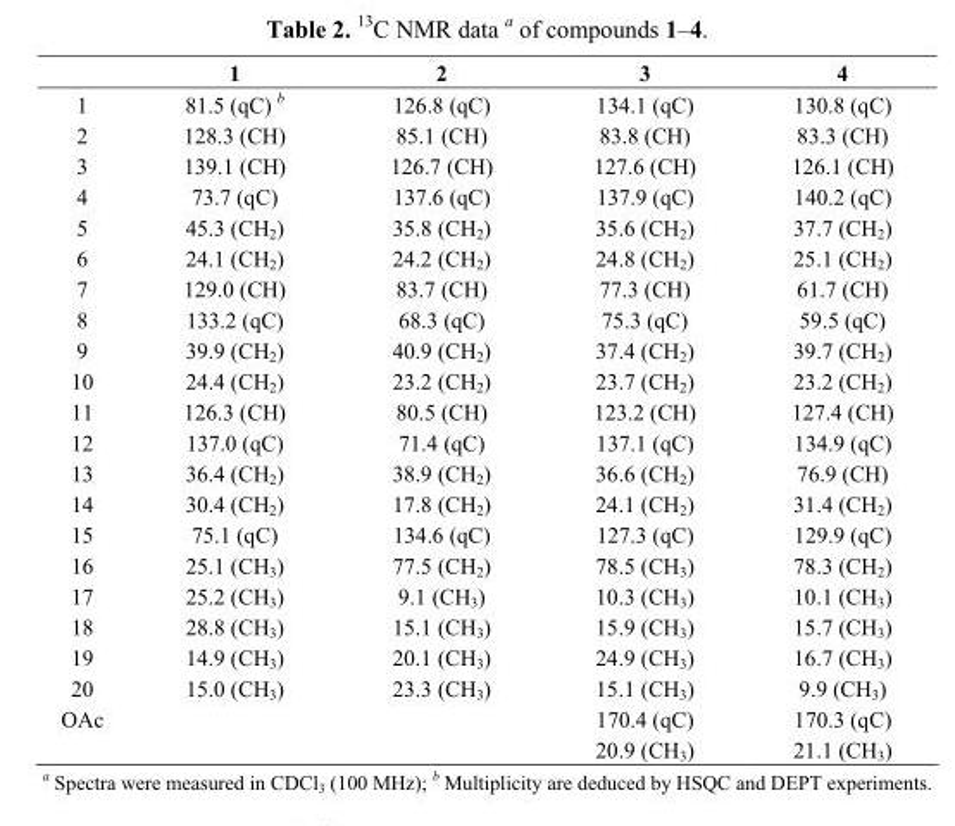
<table><thead><tr><td></td><td>1</td><td>2</td><td>3</td><td>4</td></tr></thead><tbody><tr><td>1</td><td>81.5 (qC) <sup>b</sup></td><td>126.8 (qC)</td><td>134.1 (qC)</td><td>130.8 (qC)</td></tr><tr><td>2</td><td>128.3 (CH)</td><td>85.1 (CH)</td><td>83.8 (CH)</td><td>83.3 (CH)</td></tr><tr><td>3</td><td>139.1 (CH)</td><td>126.7 (CH)</td><td>127.6 (CH)</td><td>126.1 (CH)</td></tr><tr><td>4</td><td>73.7 (qC)</td><td>137.6 (qC)</td><td>137.9 (qC)</td><td>140.2 (qC)</td></tr><tr><td>5</td><td>45.3 (CH<sub>2</sub>)</td><td>35.8 (CH<sub>2</sub>)</td><td>35.6 (CH<sub>2</sub>)</td><td>37.7 (CH<sub>2</sub>)</td></tr><tr><td>6</td><td>24.1 (CH<sub>2</sub>)</td><td>24.2 (CH<sub>2</sub>)</td><td>24.8 (CH<sub>2</sub>)</td><td>25.1 (CH<sub>2</sub>)</td></tr><tr><td>7</td><td>129.0 (CH)</td><td>83.7 (CH)</td><td>77.3 (CH)</td><td>61.7 (CH)</td></tr><tr><td>8</td><td>133.2 (qC)</td><td>68.3 (qC)</td><td>75.3 (qC)</td><td>59.5 (qC)</td></tr><tr><td>9</td><td>39.9 (CH<sub>2</sub>)</td><td>40.9 (CH<sub>2</sub>)</td><td>37.4 (CH<sub>2</sub>)</td><td>39.7 (CH<sub>2</sub>)</td></tr><tr><td>10</td><td>24.4 (CH<sub>2</sub>)</td><td>23.2 (CH<sub>2</sub>)</td><td>23.7 (CH<sub>2</sub>)</td><td>23.2 (CH<sub>2</sub>)</td></tr><tr><td>11</td><td>126.3 (CH)</td><td>80.5 (CH)</td><td>123.2 (CH)</td><td>127.4 (CH)</td></tr><tr><td>12</td><td>137.0 (qC)</td><td>71.4 (qC)</td><td>137.1 (qC)</td><td>134.9 (qC)</td></tr><tr><td>13</td><td>36.4 (CH<sub>2</sub>)</td><td>38.9 (CH<sub>2</sub>)</td><td>36.6 (CH<sub>2</sub>)</td><td>76.9 (CH)</td></tr><tr><td>14</td><td>30.4 (CH<sub>2</sub>)</td><td>17.8 (CH<sub>2</sub>)</td><td>24.1 (CH<sub>2</sub>)</td><td>31.4 (CH<sub>2</sub>)</td></tr><tr><td>15</td><td>75.1 (qC)</td><td>134.6 (qC)</td><td>127.3 (qC)</td><td>129.9 (qC)</td></tr><tr><td>16</td><td>25.1 (CH<sub>3</sub>)</td><td>77.5 (CH<sub>2</sub>)</td><td>78.5 (CH<sub>3</sub>)</td><td>78.3 (CH<sub>2</sub>)</td></tr><tr><td>17</td><td>25.2 (CH<sub>3</sub>)</td><td>9.1 (CH<sub>3</sub>)</td><td>10.3 (CH<sub>3</sub>)</td><td>10.1 (CH<sub>3</sub>)</td></tr><tr><td>18</td><td>28.8 (CH<sub>3</sub>)</td><td>15.1 (CH<sub>3</sub>)</td><td>15.9 (CH<sub>3</sub>)</td><td>15.7 (CH<sub>3</sub>)</td></tr><tr><td>19</td><td>14.9 (CH<sub>3</sub>)</td><td>20.1 (CH<sub>3</sub>)</td><td>24.9 (CH<sub>3</sub>)</td><td>16.7 (CH<sub>3</sub>)</td></tr><tr><td>20</td><td>15.0 (CH<sub>3</sub>)</td><td>23.3 (CH<sub>3</sub>)</td><td>15.1 (CH<sub>3</sub>)</td><td>9.9 (CH<sub>3</sub>)</td></tr><tr><td rowspan="2">OAc</td><td></td><td></td><td>170.4 (qC)</td><td>170.3 (qC)</td></tr><tr><td></td><td></td><td>20.9 (CH<sub>3</sub>)</td><td>21.1 (CH<sub>3</sub>)</td></tr></tbody></table>